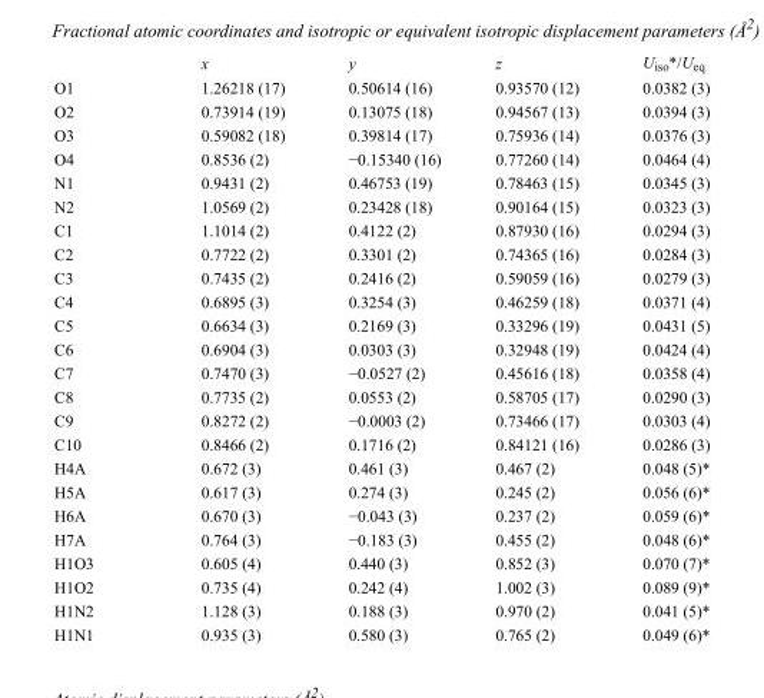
<table><thead><tr><td></td><td>x</td><td>y</td><td>z</td><td>U<sub>iso</sub>*/U<sub>eq</sub></td></tr></thead><tbody><tr><td>O1</td><td>1.26218 (17)</td><td>0.50614 (16)</td><td>0.93570 (12)</td><td>0.0382 (3)</td></tr><tr><td>O2</td><td>0.73914 (19)</td><td>0.13075 (18)</td><td>0.94567 (13)</td><td>0.0394 (3)</td></tr><tr><td>O3</td><td>0.59082 (18)</td><td>0.39814 (17)</td><td>0.75936 (14)</td><td>0.0376 (3)</td></tr><tr><td>O4</td><td>0.8536 (2)</td><td>−0.15340 (16)</td><td>0.77260 (14)</td><td>0.0464 (4)</td></tr><tr><td>N1</td><td>0.9431 (2)</td><td>0.46753 (19)</td><td>0.78463 (15)</td><td>0.0345 (3)</td></tr><tr><td>N2</td><td>1.0569 (2)</td><td>0.23428 (18)</td><td>0.90164 (15)</td><td>0.0323 (3)</td></tr><tr><td>C1</td><td>1.1014 (2)</td><td>0.4122 (2)</td><td>0.87930 (16)</td><td>0.0294 (3)</td></tr><tr><td>C2</td><td>0.7722 (2)</td><td>0.3301 (2)</td><td>0.74365 (16)</td><td>0.0284 (3)</td></tr><tr><td>C3</td><td>0.7435 (2)</td><td>0.2416 (2)</td><td>0.59059 (16)</td><td>0.0279 (3)</td></tr><tr><td>C4</td><td>0.6895 (3)</td><td>0.3254 (3)</td><td>0.46259 (18)</td><td>0.0371 (4)</td></tr><tr><td>C5</td><td>0.6634 (3)</td><td>0.2169 (3)</td><td>0.33296 (19)</td><td>0.0431 (5)</td></tr><tr><td>C6</td><td>0.6904 (3)</td><td>0.0303 (3)</td><td>0.32948 (19)</td><td>0.0424 (4)</td></tr><tr><td>C7</td><td>0.7470 (3)</td><td>−0.0527 (2)</td><td>0.45616 (18)</td><td>0.0358 (4)</td></tr><tr><td>C8</td><td>0.7735 (2)</td><td>0.0553 (2)</td><td>0.58705 (17)</td><td>0.0290 (3)</td></tr><tr><td>C9</td><td>0.8272 (2)</td><td>−0.0003 (2)</td><td>0.73466 (17)</td><td>0.0303 (4)</td></tr><tr><td>C10</td><td>0.8466 (2)</td><td>0.1716 (2)</td><td>0.84121 (16)</td><td>0.0286 (3)</td></tr><tr><td>H4A</td><td>0.672 (3)</td><td>0.461 (3)</td><td>0.467 (2)</td><td>0.048 (5)*</td></tr><tr><td>H5A</td><td>0.617 (3)</td><td>0.274 (3)</td><td>0.245 (2)</td><td>0.056 (6)*</td></tr><tr><td>H6A</td><td>0.670 (3)</td><td>−0.043 (3)</td><td>0.237 (2)</td><td>0.059 (6)*</td></tr><tr><td>H7A</td><td>0.764 (3)</td><td>−0.183 (3)</td><td>0.455 (2)</td><td>0.048 (6)*</td></tr><tr><td>H1O3</td><td>0.605 (4)</td><td>0.440 (3)</td><td>0.852 (3)</td><td>0.070 (7)*</td></tr><tr><td>H1O2</td><td>0.735 (4)</td><td>0.242 (4)</td><td>1.002 (3)</td><td>0.089 (9)*</td></tr><tr><td>H1N2</td><td>1.128 (3)</td><td>0.188 (3)</td><td>0.970 (2)</td><td>0.041 (5)*</td></tr><tr><td>H1N1</td><td>0.935 (3)</td><td>0.580 (3)</td><td>0.765 (2)</td><td>0.049 (6)*</td></tr></tbody></table>